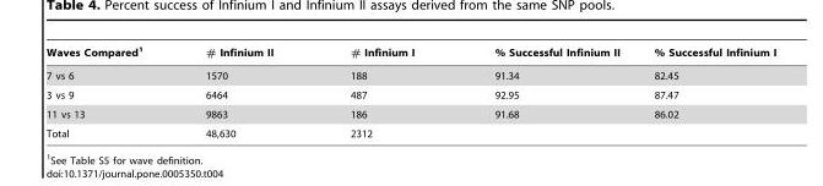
<table><thead><tr><td>Waves Compared<sup>1</sup></td><td># Infinium II</td><td># Infinium I</td><td>% Successful Infinium II</td><td>% Successful Infinium I</td></tr></thead><tbody><tr><td>7 vs 6</td><td>1570</td><td>188</td><td>91.34</td><td>82.45</td></tr><tr><td>3 vs 9</td><td>6464</td><td>487</td><td>92.95</td><td>87.47</td></tr><tr><td>11 vs 13</td><td>9863</td><td>186</td><td>91.68</td><td>86.02</td></tr><tr><td>Total</td><td>48,630</td><td>2312</td><td></td><td></td></tr></tbody></table>